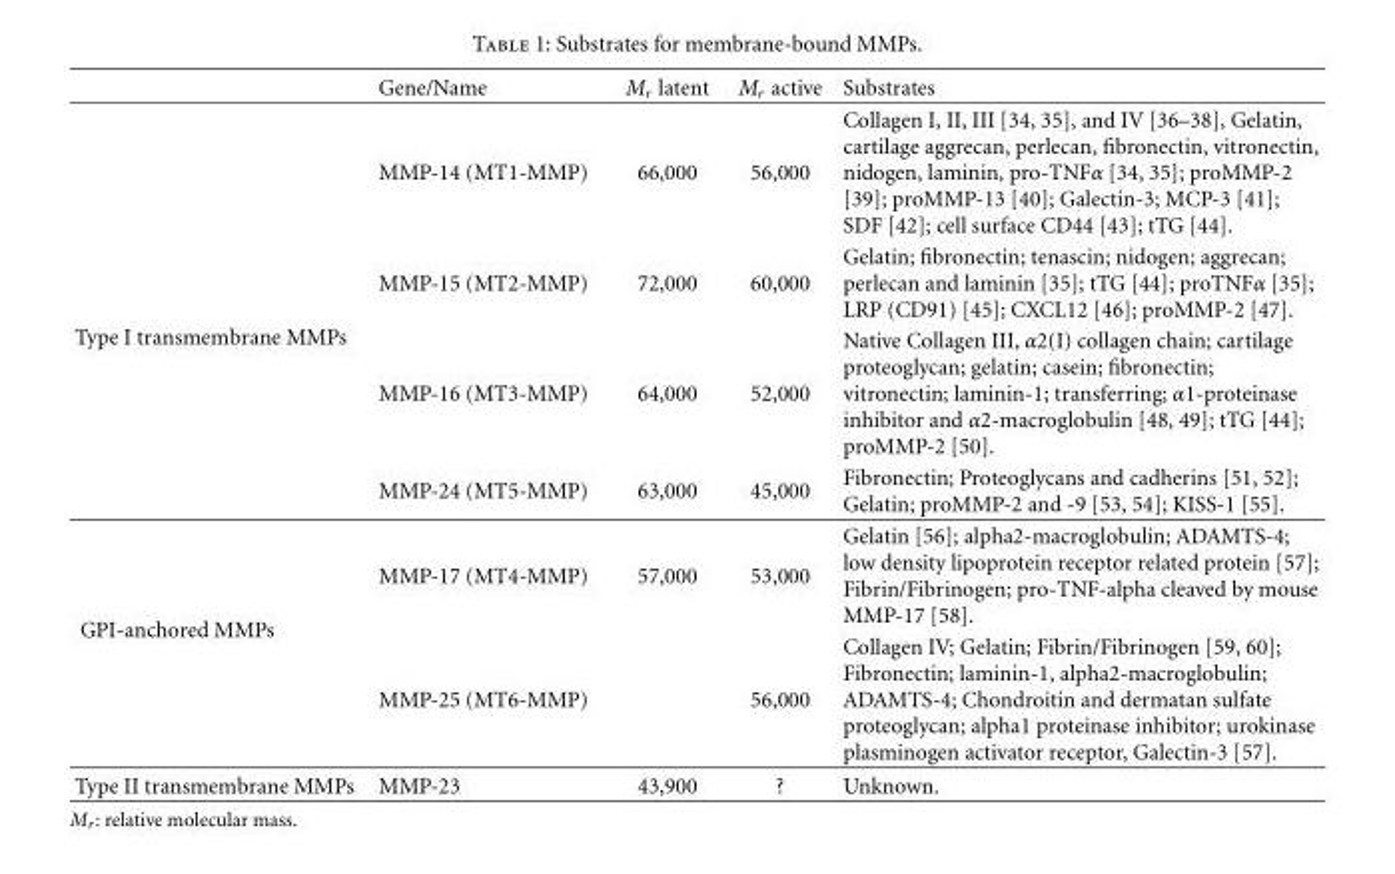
<table><thead><tr><td></td><td>Gene/Name</td><td>M<sub>r</sub> latent</td><td>M<sub>r</sub> active</td><td>Substrates</td></tr></thead><tbody><tr><td></td><td>MMP-14 (MT1-MMP)</td><td>66,000</td><td>56,000</td><td>Collagen I, II, III [34, 35], and IV [36–38], Gelatin, cartilage aggrecan, perlecan, fibronectin, vitronectin, nidogen, laminin, pro-TNFα [34, 35]; proMMP-2 [39]; proMMP-13 [40]; Galectin-3; MCP-3 [41]; SDF [42]; cell surface CD44 [43]; tTG [44].</td></tr><tr><td rowspan="3">Type I transmembrane MMPs</td><td>MMP-15 (MT2-MMP)</td><td>72,000</td><td>60,000</td><td>Gelatin; fibronectin; tenascin; nidogen; aggrecan; perlecan and laminin [35]; tTG [44]; proTNFα [35]; LRP (CD91) [45]; CXCL12 [46]; proMMP-2 [47].</td></tr><tr><td>MMP-16 (MT3-MMP)</td><td>64,000</td><td>52,000</td><td>Native Collagen III, α2(I) collagen chain; cartilage proteoglycan; gelatin; casein; fibronectin; vitronectin; laminin-1; transferring; α1-proteinase inhibitor and α2-macroglobulin [48, 49]; tTG [44]; proMMP-2 [50].</td></tr><tr><td>MMP-24 (MT5-MMP)</td><td>63,000</td><td>45,000</td><td>Fibronectin; Proteoglycans and cadherins [51, 52]; Gelatin; proMMP-2 and -9 [53, 54]; KISS-1 [55].</td></tr><tr><td rowspan="2">GPI-anchored MMPs</td><td>MMP-17 (MT4-MMP)</td><td>57,000</td><td>53,000</td><td>Gelatin [56]; alpha2-macroglobulin; ADAMTS-4; low density lipoprotein receptor related protein [57]; Fibrin/Fibrinogen; pro-TNF-alpha cleaved by mouse MMP-17 [58].</td></tr><tr><td>MMP-25 (MT6-MMP)</td><td></td><td>56,000</td><td>Collagen IV; Gelatin; Fibrin/Fibrinogen [59, 60]; Fibronectin; laminin-1, alpha2-macroglobulin; ADAMTS-4; Chondroitin and dermatan sulfate proteoglycan; alpha1 proteinase inhibitor; urokinase plasminogen activator receptor, Galectin-3 [57].</td></tr><tr><td>Type II transmembrane MMPs</td><td>MMP-23</td><td>43,900</td><td>?</td><td>Unknown.</td></tr></tbody></table>